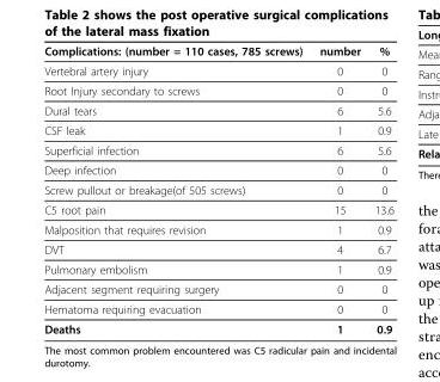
<table><thead><tr><td>Complications: (number = 110 cases, 785 screws)</td><td>number</td><td>%</td></tr></thead><tbody><tr><td>Vertebral artery injury</td><td>0</td><td>0</td></tr><tr><td>Root Injury secondary to screws</td><td>0</td><td>0</td></tr><tr><td>Dural tears</td><td>6</td><td>5.6</td></tr><tr><td>CSF leak</td><td>1</td><td>0.9</td></tr><tr><td>Superficial infection</td><td>6</td><td>5.6</td></tr><tr><td>Deep infection</td><td>0</td><td>0</td></tr><tr><td>Screw pullout or breakage(of 505 screws)</td><td>0</td><td>0</td></tr><tr><td>C5 root pain</td><td>15</td><td>13.6</td></tr><tr><td>Malposition that requires revision</td><td>1</td><td>0.9</td></tr><tr><td>DVT</td><td>4</td><td>6.7</td></tr><tr><td>Pulmonary embolism</td><td>1</td><td>0.9</td></tr><tr><td>Adjacent segment requiring surgery</td><td>0</td><td>0</td></tr><tr><td>Hematoma requiring evacuation</td><td>0</td><td>0</td></tr><tr><td>Deaths</td><td>1</td><td>0.9</td></tr></tbody></table>